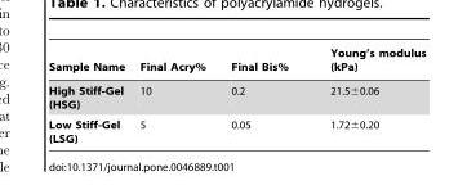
<table><thead><tr><td>Sample Name</td><td>Final Acry%</td><td>Final Bis%</td><td>Young’s modulus (kPa)</td></tr></thead><tbody><tr><td>High Stiff-Gel (HSG)</td><td>10</td><td>0.2</td><td>21.5±0.06</td></tr><tr><td>Low Stiff-Gel (LSG)</td><td>5</td><td>0.05</td><td>1.72±0.20</td></tr></tbody></table>